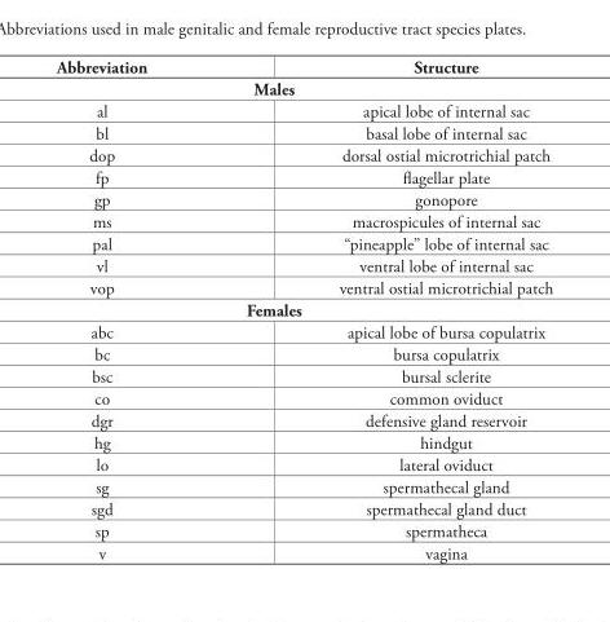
<table><thead><tr><td>Abbreviation</td><td>Structure</td></tr></thead><tbody><tr><td colspan="2">Males</td></tr><tr><td>al</td><td>apical lobe of internal sac</td></tr><tr><td>bl</td><td>basal lobe of internal sac</td></tr><tr><td>dop</td><td>dorsal ostial microtrichial patch</td></tr><tr><td>fp</td><td>flagellar plate</td></tr><tr><td>gp</td><td>gonopore</td></tr><tr><td>ms</td><td>macrospicules of internal sac</td></tr><tr><td>pal</td><td>“pineapple” lobe of internal sac</td></tr><tr><td>vl</td><td>ventral lobe of internal sac</td></tr><tr><td>vop</td><td>ventral ostial microtrichial patch</td></tr><tr><td colspan="2">Females</td></tr><tr><td>abc</td><td>apical lobe of bursa copulatrix</td></tr><tr><td>bc</td><td>bursa copulatrix</td></tr><tr><td>bsc</td><td>bursal sclerite</td></tr><tr><td>co</td><td>common oviduct</td></tr><tr><td>dgr</td><td>defensive gland reservoir</td></tr><tr><td>hg</td><td>hindgut</td></tr><tr><td>lo</td><td>lateral oviduct</td></tr><tr><td>sg</td><td>spermathecal gland</td></tr><tr><td>sgd</td><td>spermathecal gland duct</td></tr><tr><td>sp</td><td>spermatheca</td></tr><tr><td>v</td><td>vagina</td></tr></tbody></table>